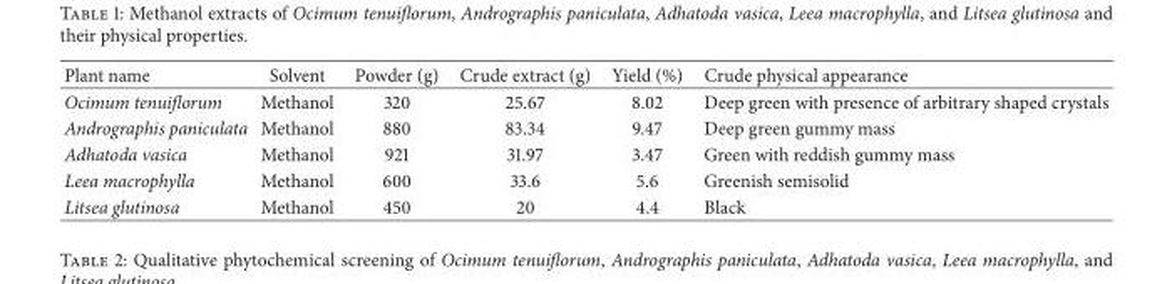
<table><thead><tr><td>Plant name</td><td>Solvent</td><td>Powder (g)</td><td>Crude extract (g)</td><td>Yield (%)</td><td>Crude physical appearance</td></tr></thead><tbody><tr><td>Ocimum tenuiflorum</td><td>Methanol</td><td>320</td><td>25.67</td><td>8.02</td><td>Deep green with presence of arbitrary shaped crystals</td></tr><tr><td>Andrographis paniculata</td><td>Methanol</td><td>880</td><td>83.34</td><td>9.47</td><td>Deep green gummy mass</td></tr><tr><td>Adhatoda vasica</td><td>Methanol</td><td>921</td><td>31.97</td><td>3.47</td><td>Green with reddish gummy mass</td></tr><tr><td>Leea macrophylla</td><td>Methanol</td><td>600</td><td>33.6</td><td>5.6</td><td>Greenish semisolid</td></tr><tr><td>Litsea glutinosa</td><td>Methanol</td><td>450</td><td>20</td><td>4.4</td><td>Black</td></tr></tbody></table>